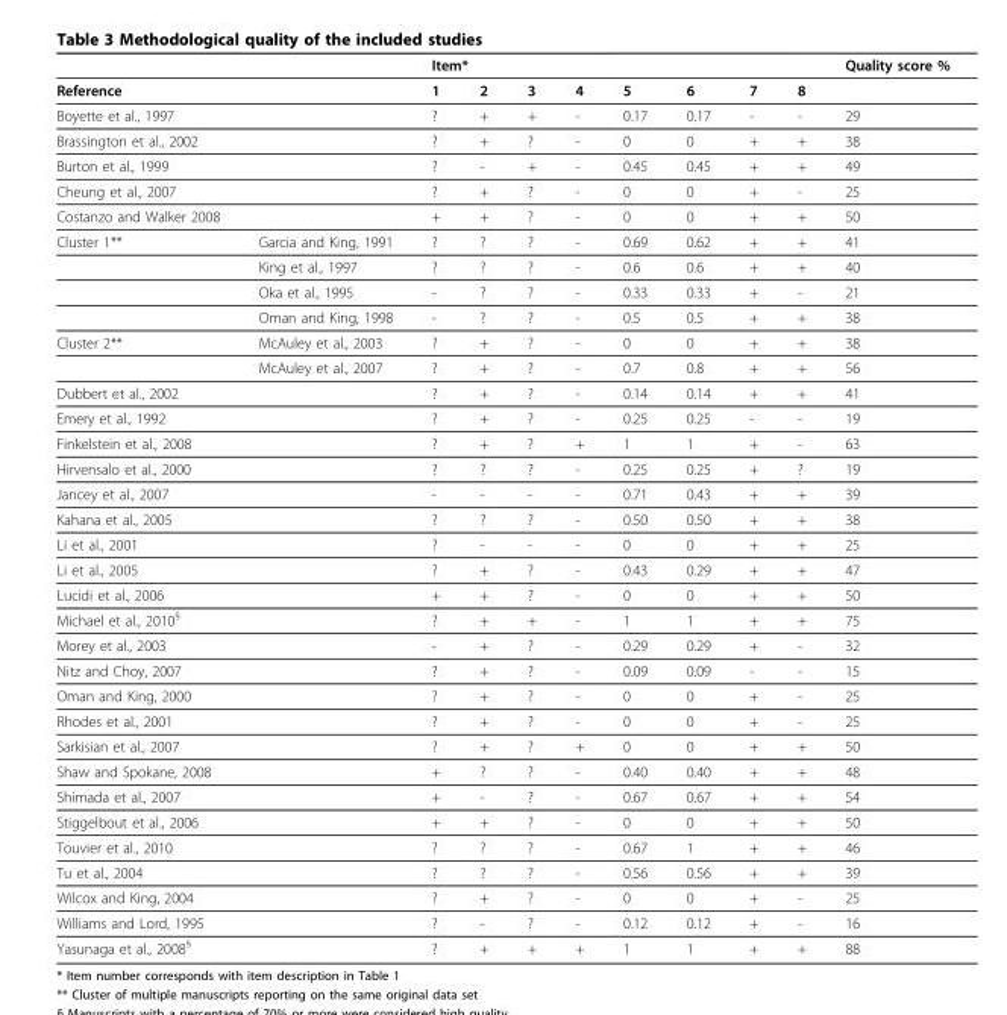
<table><thead><tr><td></td><td></td><td colspan="8">Item*</td><td rowspan="2">Quality score %</td></tr><tr><td colspan="2">Reference</td><td>1</td><td>2</td><td>3</td><td>4</td><td>5</td><td>6</td><td>7</td><td>8</td></tr></thead><tbody><tr><td>Boyette et al., 1997</td><td></td><td>?</td><td>+</td><td>+</td><td>-</td><td>0.17</td><td>0.17</td><td>-</td><td>-</td><td>29</td></tr><tr><td>Brassington et al., 2002</td><td></td><td>?</td><td>+</td><td>?</td><td>-</td><td>0</td><td>0</td><td>+</td><td>+</td><td>38</td></tr><tr><td>Burton et al., 1999</td><td></td><td>?</td><td>-</td><td>+</td><td>-</td><td>0.45</td><td>0.45</td><td>+</td><td>+</td><td>49</td></tr><tr><td>Cheung et al., 2007</td><td></td><td>?</td><td>+</td><td>?</td><td>-</td><td>0</td><td>0</td><td>+</td><td>-</td><td>25</td></tr><tr><td>Costanzo and Walker 2008</td><td></td><td>+</td><td>+</td><td>?</td><td>-</td><td>0</td><td>0</td><td>+</td><td>+</td><td>50</td></tr><tr><td rowspan="4">Cluster 1**</td><td>Garcia and King, 1991</td><td>?</td><td>?</td><td>?</td><td>-</td><td>0.69</td><td>0.62</td><td>+</td><td>+</td><td>41</td></tr><tr><td>King et al., 1997</td><td>?</td><td>?</td><td>?</td><td>-</td><td>0.6</td><td>0.6</td><td>+</td><td>+</td><td>40</td></tr><tr><td>Oka et al., 1995</td><td>-</td><td>?</td><td>?</td><td>-</td><td>0.33</td><td>0.33</td><td>+</td><td>-</td><td>21</td></tr><tr><td>Oman and King, 1998</td><td>-</td><td>?</td><td>?</td><td>-</td><td>0.5</td><td>0.5</td><td>+</td><td>+</td><td>38</td></tr><tr><td rowspan="2">Cluster 2**</td><td>McAuley et al., 2003</td><td>?</td><td>+</td><td>?</td><td>-</td><td>0</td><td>0</td><td>+</td><td>+</td><td>38</td></tr><tr><td>McAuley et al., 2007</td><td>?</td><td>+</td><td>?</td><td>-</td><td>0.7</td><td>0.8</td><td>+</td><td>+</td><td>56</td></tr><tr><td>Dubbert et al., 2002</td><td></td><td>?</td><td>+</td><td>?</td><td>-</td><td>0.14</td><td>0.14</td><td>+</td><td>+</td><td>41</td></tr><tr><td>Emery et al., 1992</td><td></td><td>?</td><td>+</td><td>?</td><td>-</td><td>0.25</td><td>0.25</td><td>-</td><td>-</td><td>19</td></tr><tr><td>Finkelstein et al., 2008</td><td></td><td>?</td><td>+</td><td>?</td><td>+</td><td>1</td><td>1</td><td>+</td><td>-</td><td>63</td></tr><tr><td>Hirvensalo et al., 2000</td><td></td><td>?</td><td>?</td><td>?</td><td>-</td><td>0.25</td><td>0.25</td><td>+</td><td>?</td><td>19</td></tr><tr><td>Jancey et al., 2007</td><td></td><td>-</td><td>-</td><td>-</td><td>-</td><td>0.71</td><td>0.43</td><td>+</td><td>+</td><td>39</td></tr><tr><td>Kahana et al., 2005</td><td></td><td>?</td><td>?</td><td>?</td><td>-</td><td>0.50</td><td>0.50</td><td>+</td><td>+</td><td>38</td></tr><tr><td>Li et al., 2001</td><td></td><td>?</td><td>-</td><td>-</td><td>-</td><td>0</td><td>0</td><td>+</td><td>+</td><td>25</td></tr><tr><td>Li et al., 2005</td><td></td><td>?</td><td>+</td><td>?</td><td>-</td><td>0.43</td><td>0.29</td><td>+</td><td>+</td><td>47</td></tr><tr><td>Lucidi et al., 2006</td><td></td><td>+</td><td>+</td><td>?</td><td>-</td><td>0</td><td>0</td><td>+</td><td>+</td><td>50</td></tr><tr><td>Michael et al., 2010<sup>§</sup></td><td></td><td>?</td><td>+</td><td>+</td><td>-</td><td>1</td><td>1</td><td>+</td><td>+</td><td>75</td></tr><tr><td>Morey et al., 2003</td><td></td><td>-</td><td>+</td><td>?</td><td>-</td><td>0.29</td><td>0.29</td><td>+</td><td>-</td><td>32</td></tr><tr><td>Nitz and Choy, 2007</td><td></td><td>?</td><td>+</td><td>?</td><td>-</td><td>0.09</td><td>0.09</td><td>-</td><td>-</td><td>15</td></tr><tr><td>Oman and King, 2000</td><td></td><td>?</td><td>+</td><td>?</td><td>-</td><td>0</td><td>0</td><td>+</td><td>-</td><td>25</td></tr><tr><td>Rhodes et al., 2001</td><td></td><td>?</td><td>+</td><td>?</td><td>-</td><td>0</td><td>0</td><td>+</td><td>-</td><td>25</td></tr><tr><td>Sarkisian et al., 2007</td><td></td><td>?</td><td>+</td><td>?</td><td>+</td><td>0</td><td>0</td><td>+</td><td>+</td><td>50</td></tr><tr><td>Shaw and Spokane, 2008</td><td></td><td>+</td><td>?</td><td>?</td><td>-</td><td>0.40</td><td>0.40</td><td>+</td><td>+</td><td>48</td></tr><tr><td>Shimada et al., 2007</td><td></td><td>+</td><td>-</td><td>?</td><td>-</td><td>0.67</td><td>0.67</td><td>+</td><td>+</td><td>54</td></tr><tr><td>Stiggelbout et al., 2006</td><td></td><td>+</td><td>+</td><td>?</td><td>-</td><td>0</td><td>0</td><td>+</td><td>+</td><td>50</td></tr><tr><td>Touvier et al., 2010</td><td></td><td>?</td><td>?</td><td>?</td><td>-</td><td>0.67</td><td>1</td><td>+</td><td>+</td><td>46</td></tr><tr><td>Tu et al., 2004</td><td></td><td>?</td><td>?</td><td>?</td><td>-</td><td>0.56</td><td>0.56</td><td>+</td><td>+</td><td>39</td></tr><tr><td>Wilcox and King, 2004</td><td></td><td>?</td><td>+</td><td>?</td><td>-</td><td>0</td><td>0</td><td>+</td><td>-</td><td>25</td></tr><tr><td>Williams and Lord, 1995</td><td></td><td>?</td><td>-</td><td>?</td><td>-</td><td>0.12</td><td>0.12</td><td>+</td><td>-</td><td>16</td></tr><tr><td>Yasunaga et al., 2008<sup>§</sup></td><td></td><td>?</td><td>+</td><td>+</td><td>+</td><td>1</td><td>1</td><td>+</td><td>+</td><td>88</td></tr></tbody></table>